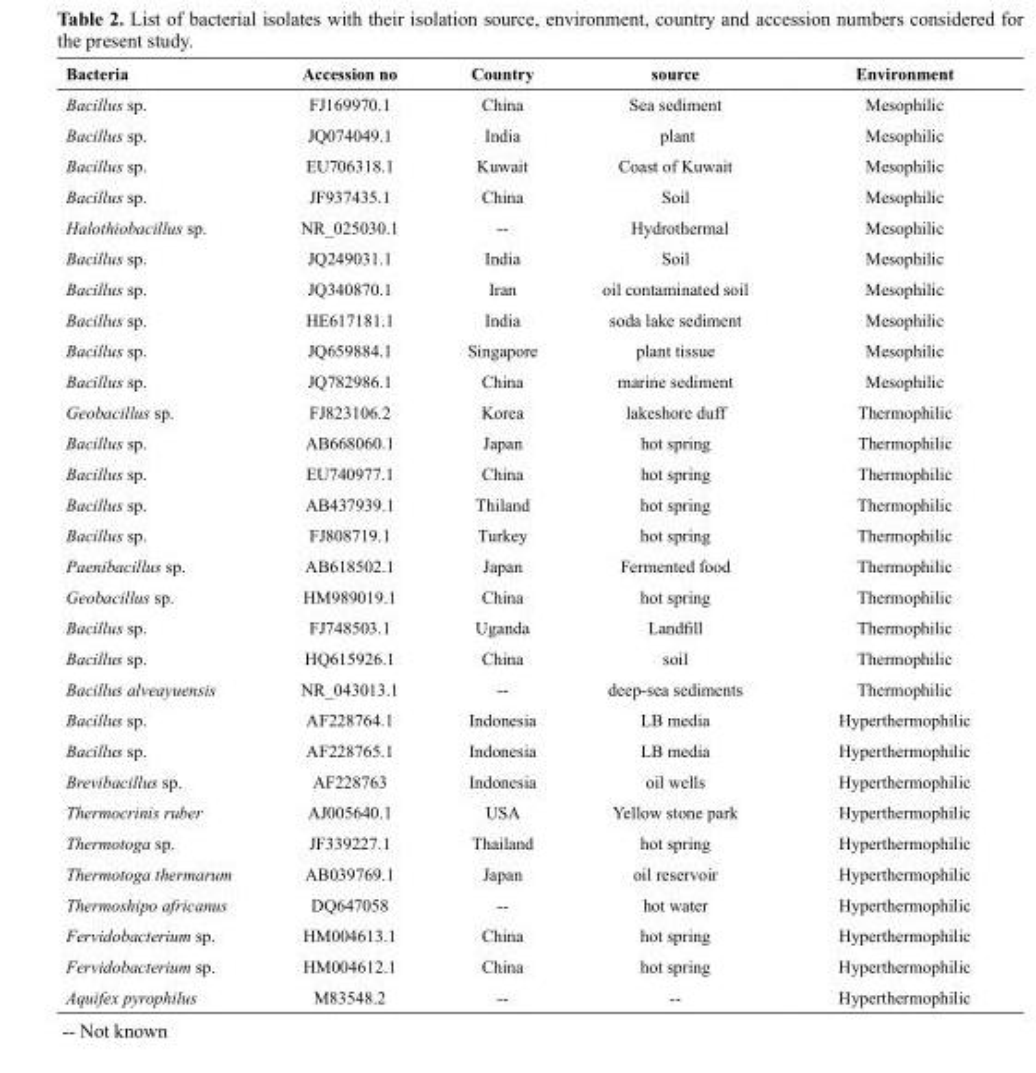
<table><thead><tr><td>Bacteria</td><td>Accession no</td><td>Country</td><td>source</td><td>Environment</td></tr></thead><tbody><tr><td>Bacillus sp.</td><td>FJ169970.1</td><td>China</td><td>Sea sediment</td><td>Mesophilic</td></tr><tr><td>Bacillus sp.</td><td>JQ074049.1</td><td>India</td><td>plant</td><td>Mesophilic</td></tr><tr><td>Bacillus sp.</td><td>EU706318.1</td><td>Kuwait</td><td>Coast of Kuwait</td><td>Mesophilic</td></tr><tr><td>Bacillus sp.</td><td>JF937435.1</td><td>China</td><td>Soil</td><td>Mesophilic</td></tr><tr><td>Halothiobacillus sp.</td><td>NR_025030.1</td><td>--</td><td>Hydrothermal</td><td>Mesophilic</td></tr><tr><td>Bacillus sp.</td><td>JQ249031.1</td><td>India</td><td>Soil</td><td>Mesophilic</td></tr><tr><td>Bacillus sp.</td><td>JQ340870.1</td><td>Iran</td><td>oil contaminated soil</td><td>Mesophilic</td></tr><tr><td>Bacillus sp.</td><td>HE617181.1</td><td>India</td><td>soda lake sediment</td><td>Mesophilic</td></tr><tr><td>Bacillus sp.</td><td>JQ659884.1</td><td>Singapore</td><td>plant tissue</td><td>Mesophilic</td></tr><tr><td>Bacillus sp.</td><td>JQ782986.1</td><td>China</td><td>marine sediment</td><td>Mesophilic</td></tr><tr><td>Geobacillus sp.</td><td>FJ823106.2</td><td>Korea</td><td>lakeshore duff</td><td>Thermophilic</td></tr><tr><td>Bacillus sp.</td><td>AB668060.1</td><td>Japan</td><td>hot spring</td><td>Thermophilic</td></tr><tr><td>Bacillus sp.</td><td>EU740977.1</td><td>China</td><td>hot spring</td><td>Thermophilic</td></tr><tr><td>Bacillus sp.</td><td>AB437939.1</td><td>Thiland</td><td>hot spring</td><td>Thermophilic</td></tr><tr><td>Bacillus sp.</td><td>FJ808719.1</td><td>Turkey</td><td>hot spring</td><td>Thermophilic</td></tr><tr><td>Paenibacillus sp.</td><td>AB618502.1</td><td>Japan</td><td>Fermented food</td><td>Thermophilic</td></tr><tr><td>Geobacillus sp.</td><td>HM989019.1</td><td>China</td><td>hot spring</td><td>Thermophilic</td></tr><tr><td>Bacillus sp.</td><td>FJ748503.1</td><td>Uganda</td><td>Landfill</td><td>Thermophilic</td></tr><tr><td>Bacillus sp.</td><td>HQ615926.1</td><td>China</td><td>soil</td><td>Thermophilic</td></tr><tr><td>Bacillus alveayuensis</td><td>NR_043013.1</td><td>--</td><td>deep-sea sediments</td><td>Thermophilic</td></tr><tr><td>Bacillus sp.</td><td>AF228764.1</td><td>Indonesia</td><td>LB media</td><td>Hyperthermophilic</td></tr><tr><td>Bacillus sp.</td><td>AF228765.1</td><td>Indonesia</td><td>LB media</td><td>Hyperthermophilic</td></tr><tr><td>Brevibacillus sp.</td><td>AF228763</td><td>Indonesia</td><td>oil wells</td><td>Hyperthermophilic</td></tr><tr><td>Thermocrinis ruber</td><td>AJ005640.1</td><td>USA</td><td>Yellow stone park</td><td>Hyperthermophilic</td></tr><tr><td>Thermotoga sp.</td><td>JF339227.1</td><td>Thailand</td><td>hot spring</td><td>Hyperthermophilic</td></tr><tr><td>Thermotoga thermarum</td><td>AB039769.1</td><td>Japan</td><td>oil reservoir</td><td>Hyperthermophilic</td></tr><tr><td>Thermoshipo africanus</td><td>DQ647058</td><td>--</td><td>hot water</td><td>Hyperthermophilic</td></tr><tr><td>Fervidobacterium sp.</td><td>HM004613.1</td><td>China</td><td>hot spring</td><td>Hyperthermophilic</td></tr><tr><td>Fervidobacterium sp.</td><td>HM004612.1</td><td>China</td><td>hot spring</td><td>Hyperthermophilic</td></tr><tr><td>Aquifex pyrophilus</td><td>M83548.2</td><td>--</td><td>--</td><td>Hyperthermophilic</td></tr></tbody></table>